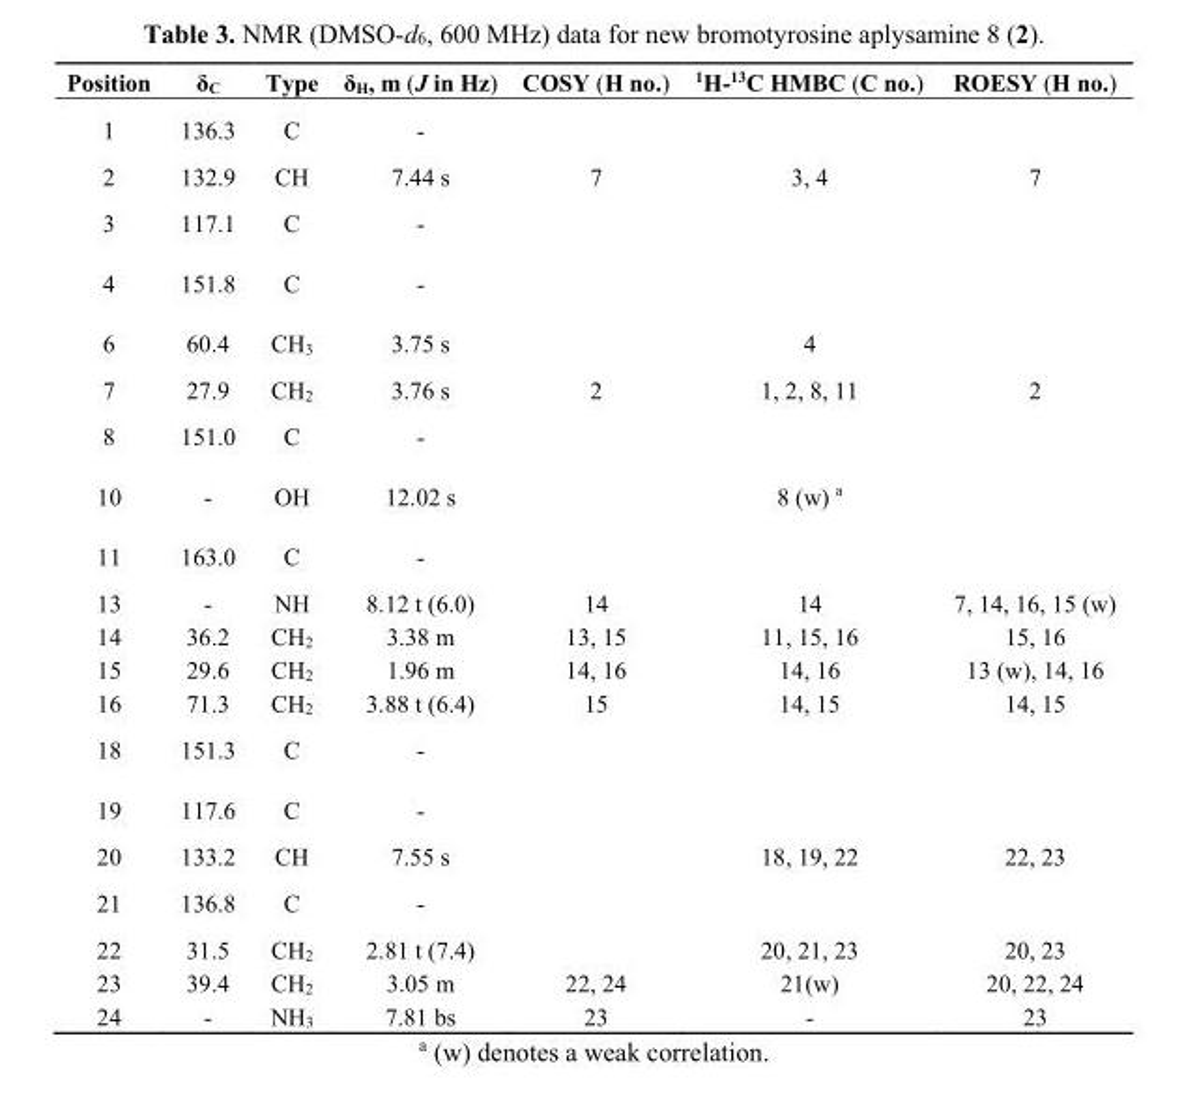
<table><thead><tr><td>Position</td><td>δC</td><td>Type</td><td>δH, m (J in Hz)</td><td>COSY (H no.)</td><td><sup>1</sup>H-<sup>13</sup>C HMBC (C no.)</td><td>ROESY (H no.)</td></tr></thead><tbody><tr><td>1</td><td>136.3</td><td>C</td><td>-</td><td></td><td></td><td></td></tr><tr><td>2</td><td>132.9</td><td>CH</td><td>7.44 s</td><td>7</td><td>3, 4</td><td>7</td></tr><tr><td>3</td><td>117.1</td><td>C</td><td>-</td><td></td><td></td><td></td></tr><tr><td>4</td><td>151.8</td><td>C</td><td>-</td><td></td><td></td><td></td></tr><tr><td>6</td><td>60.4</td><td>CH<sub>3</sub></td><td>3.75 s</td><td></td><td>4</td><td></td></tr><tr><td>7</td><td>27.9</td><td>CH<sub>2</sub></td><td>3.76 s</td><td>2</td><td>1, 2, 8, 11</td><td>2</td></tr><tr><td>8</td><td>151.0</td><td>C</td><td>-</td><td></td><td></td><td></td></tr><tr><td>10</td><td>-</td><td>OH</td><td>12.02 s</td><td></td><td>8 (w) <sup>a</sup></td><td></td></tr><tr><td>11</td><td>163.0</td><td>C</td><td>-</td><td></td><td></td><td></td></tr><tr><td>13</td><td>-</td><td>NH</td><td>8.12 t (6.0)</td><td>14</td><td>14</td><td>7, 14, 16, 15 (w)</td></tr><tr><td>14</td><td>36.2</td><td>CH<sub>2</sub></td><td>3.38 m</td><td>13, 15</td><td>11, 15, 16</td><td>15, 16</td></tr><tr><td>15</td><td>29.6</td><td>CH<sub>2</sub></td><td>1.96 m</td><td>14, 16</td><td>14, 16</td><td>13 (w), 14, 16</td></tr><tr><td>16</td><td>71.3</td><td>CH<sub>2</sub></td><td>3.88 t (6.4)</td><td>15</td><td>14, 15</td><td>14, 15</td></tr><tr><td>18</td><td>151.3</td><td>C</td><td>-</td><td></td><td></td><td></td></tr><tr><td>19</td><td>117.6</td><td>C</td><td>-</td><td></td><td></td><td></td></tr><tr><td>20</td><td>133.2</td><td>CH</td><td>7.55 s</td><td></td><td>18, 19, 22</td><td>22, 23</td></tr><tr><td>21</td><td>136.8</td><td>C</td><td>-</td><td></td><td></td><td></td></tr><tr><td>22</td><td>31.5</td><td>CH<sub>2</sub></td><td>2.81 t (7.4)</td><td></td><td>20, 21, 23</td><td>20, 23</td></tr><tr><td>23</td><td>39.4</td><td>CH<sub>2</sub></td><td>3.05 m</td><td>22, 24</td><td>21(w)</td><td>20, 22, 24</td></tr><tr><td>24</td><td>-</td><td>NH<sub>3</sub></td><td>7.81 bs</td><td>23</td><td>-</td><td>23</td></tr></tbody></table>